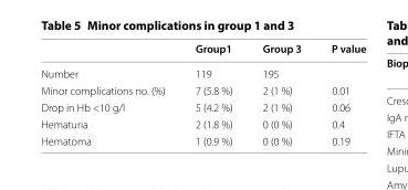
<table><thead><tr><td></td><td>Group1</td><td>Group 3</td><td>P value</td></tr></thead><tbody><tr><td>Number</td><td>119</td><td>195</td><td></td></tr><tr><td>Minor complications no. (%)</td><td>7 (5.8 %)</td><td>2 (1 %)</td><td>0.01</td></tr><tr><td>Drop in Hb &lt;10 g/l</td><td>5 (4.2 %)</td><td>2 (1 %)</td><td>0.06</td></tr><tr><td>Hematuria</td><td>2 (1.8 %)</td><td>0 (0 %)</td><td>0.4</td></tr><tr><td>Hematoma</td><td>1 (0.9 %)</td><td>0 (0 %)</td><td>0.19</td></tr></tbody></table>